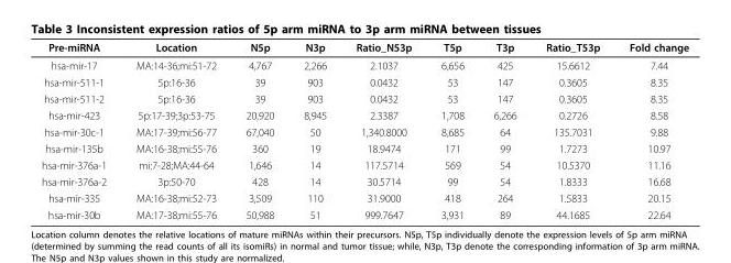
<table><thead><tr><td>Pre-miRNA</td><td>Location</td><td>N5p</td><td>N3p</td><td>Ratio_N53p</td><td>T5p</td><td>T3p</td><td>Ratio_T53p</td><td>Fold change</td></tr></thead><tbody><tr><td>hsa-mir-17</td><td>MA:14-36;mi:51-72</td><td>4,767</td><td>2,266</td><td>2.1037</td><td>6,656</td><td>425</td><td>15.6612</td><td>7.44</td></tr><tr><td>hsa-mir-511-1</td><td>5p:16-36</td><td>39</td><td>903</td><td>0.0432</td><td>53</td><td>147</td><td>0.3605</td><td>8.35</td></tr><tr><td>hsa-mir-511-2</td><td>5p:16-36</td><td>39</td><td>903</td><td>0.0432</td><td>53</td><td>147</td><td>0.3605</td><td>8.35</td></tr><tr><td>hsa-mir-423</td><td>5p:17-39;3p:53-75</td><td>20,920</td><td>8,945</td><td>2.3387</td><td>1,708</td><td>6,266</td><td>0.2726</td><td>8.58</td></tr><tr><td>hsa-mir-30c-1</td><td>MA:17-39;mi:56-77</td><td>67,040</td><td>50</td><td>1,340.8000</td><td>8,685</td><td>64</td><td>135.7031</td><td>9.88</td></tr><tr><td>hsa-mir-135b</td><td>MA:16-38;mi:55-76</td><td>360</td><td>19</td><td>18.9474</td><td>171</td><td>99</td><td>1.7273</td><td>10.97</td></tr><tr><td>hsa-mir-376a-1</td><td>mi:7-28;MA:44-64</td><td>1,646</td><td>14</td><td>117.5714</td><td>569</td><td>54</td><td>10.5370</td><td>11.16</td></tr><tr><td>hsa-mir-376a-2</td><td>3p:50-70</td><td>428</td><td>14</td><td>30.5714</td><td>99</td><td>54</td><td>1.8333</td><td>16.68</td></tr><tr><td>hsa-mir-335</td><td>MA:16-38;mi:52-73</td><td>3,509</td><td>110</td><td>31.9000</td><td>418</td><td>264</td><td>1.5833</td><td>20.15</td></tr><tr><td>hsa-mir-30b</td><td>MA:17-38;mi:55-76</td><td>50,988</td><td>51</td><td>999.7647</td><td>3,931</td><td>89</td><td>44.1685</td><td>22.64</td></tr></tbody></table>